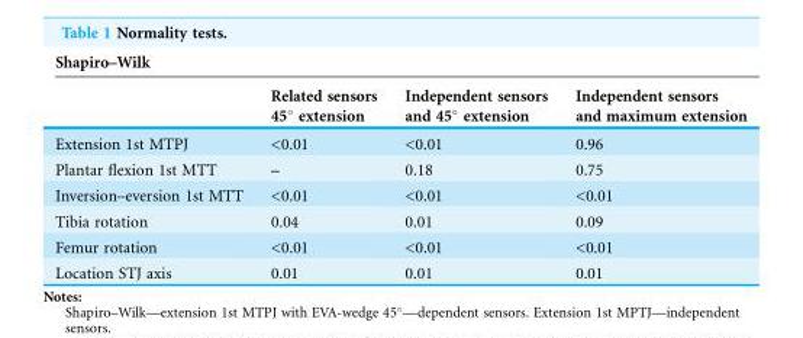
<table><thead><tr><td colspan="4">Shapiro–Wilk</td></tr><tr><td></td><td>Related sensors 45° extension</td><td>Independent sensors and 45° extension</td><td>Independent sensors and maximum extension</td></tr></thead><tbody><tr><td>Extension 1st MTPJ</td><td>&lt;0.01</td><td>&lt;0.01</td><td>0.96</td></tr><tr><td>Plantar flexion 1st MTT</td><td>–</td><td>0.18</td><td>0.75</td></tr><tr><td>Inversion–eversion 1st MTT</td><td>&lt;0.01</td><td>&lt;0.01</td><td>&lt;0.01</td></tr><tr><td>Tibia rotation</td><td>0.04</td><td>0.01</td><td>0.09</td></tr><tr><td>Femur rotation</td><td>&lt;0.01</td><td>&lt;0.01</td><td>&lt;0.01</td></tr><tr><td>Location STJ axis</td><td>0.01</td><td>0.01</td><td>0.01</td></tr></tbody></table>